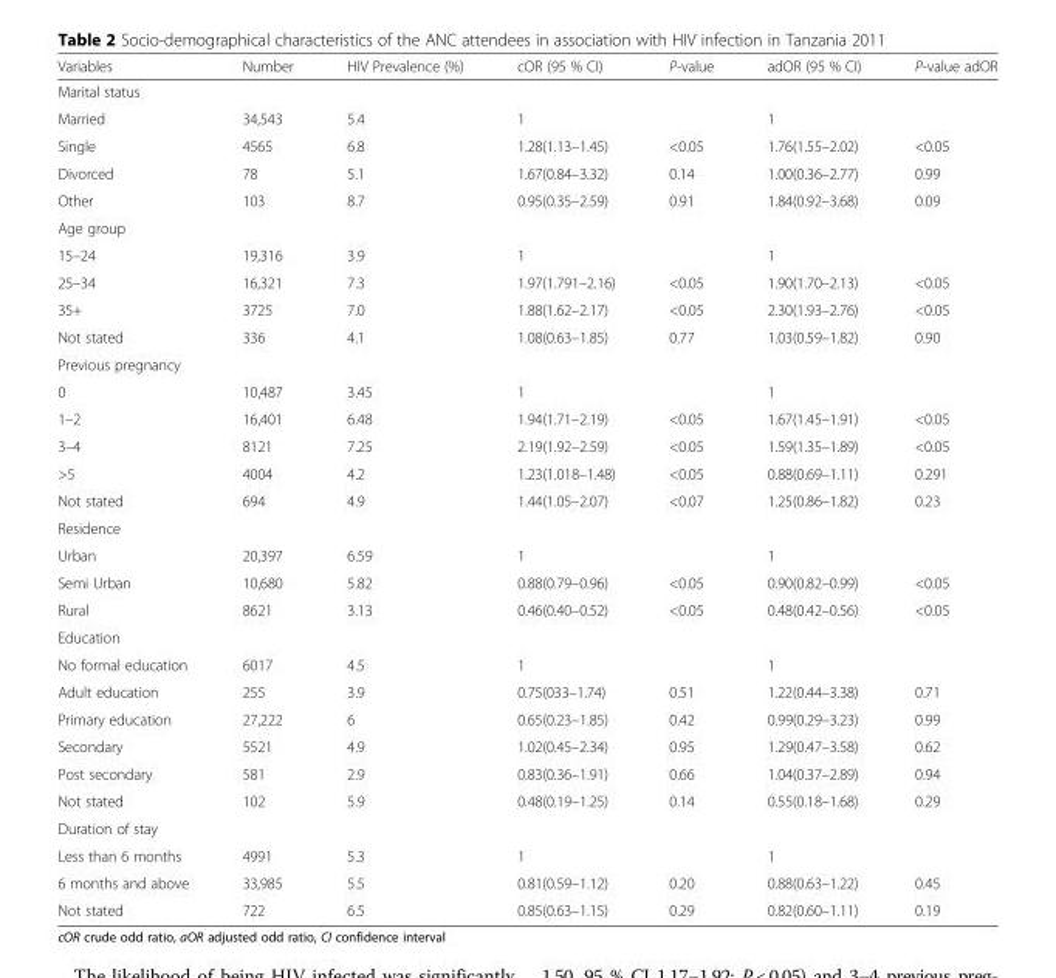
<table><thead><tr><td>Variables</td><td>Number</td><td>HIV Prevalence (%)</td><td>cOR (95 % CI)</td><td>P-value</td><td>adOR (95 % CI)</td><td>P-value adOR</td></tr></thead><tbody><tr><td colspan="7">Marital status</td></tr><tr><td>Married</td><td>34,543</td><td>5.4</td><td>1</td><td></td><td>1</td><td></td></tr><tr><td>Single</td><td>4565</td><td>6.8</td><td>1.28(1.13–1.45)</td><td>&lt;0.05</td><td>1.76(1.55–2.02)</td><td>&lt;0.05</td></tr><tr><td>Divorced</td><td>78</td><td>5.1</td><td>1.67(0.84–3.32)</td><td>0.14</td><td>1.00(0.36–2.77)</td><td>0.99</td></tr><tr><td>Other</td><td>103</td><td>8.7</td><td>0.95(0.35–2.59)</td><td>0.91</td><td>1.84(0.92–3.68)</td><td>0.09</td></tr><tr><td colspan="7">Age group</td></tr><tr><td>15–24</td><td>19,316</td><td>3.9</td><td>1</td><td></td><td>1</td><td></td></tr><tr><td>25–34</td><td>16,321</td><td>7.3</td><td>1.97(1.791–2.16)</td><td>&lt;0.05</td><td>1.90(1.70–2.13)</td><td>&lt;0.05</td></tr><tr><td>35+</td><td>3725</td><td>7.0</td><td>1.88(1.62–2.17)</td><td>&lt;0.05</td><td>2.30(1.93–2.76)</td><td>&lt;0.05</td></tr><tr><td>Not stated</td><td>336</td><td>4.1</td><td>1.08(0.63–1.85)</td><td>0.77</td><td>1.03(0.59–1.82)</td><td>0.90</td></tr><tr><td colspan="7">Previous pregnancy</td></tr><tr><td>0</td><td>10,487</td><td>3.45</td><td>1</td><td></td><td>1</td><td></td></tr><tr><td>1–2</td><td>16,401</td><td>6.48</td><td>1.94(1.71–2.19)</td><td>&lt;0.05</td><td>1.67(1.45–1.91)</td><td>&lt;0.05</td></tr><tr><td>3–4</td><td>8121</td><td>7.25</td><td>2.19(1.92–2.59)</td><td>&lt;0.05</td><td>1.59(1.35–1.89)</td><td>&lt;0.05</td></tr><tr><td>&gt;5</td><td>4004</td><td>4.2</td><td>1.23(1.018–1.48)</td><td>&lt;0.05</td><td>0.88(0.69–1.11)</td><td>0.291</td></tr><tr><td>Not stated</td><td>694</td><td>4.9</td><td>1.44(1.05–2.07)</td><td>&lt;0.07</td><td>1.25(0.86–1.82)</td><td>0.23</td></tr><tr><td colspan="7">Residence</td></tr><tr><td>Urban</td><td>20,397</td><td>6.59</td><td>1</td><td></td><td>1</td><td></td></tr><tr><td>Semi Urban</td><td>10,680</td><td>5.82</td><td>0.88(0.79–0.96)</td><td>&lt;0.05</td><td>0.90(0.82–0.99)</td><td>&lt;0.05</td></tr><tr><td>Rural</td><td>8621</td><td>3.13</td><td>0.46(0.40–0.52)</td><td>&lt;0.05</td><td>0.48(0.42–0.56)</td><td>&lt;0.05</td></tr><tr><td colspan="7">Education</td></tr><tr><td>No formal education</td><td>6017</td><td>4.5</td><td>1</td><td></td><td>1</td><td></td></tr><tr><td>Adult education</td><td>255</td><td>3.9</td><td>0.75(033–1.74)</td><td>0.51</td><td>1.22(0.44–3.38)</td><td>0.71</td></tr><tr><td>Primary education</td><td>27,222</td><td>6</td><td>0.65(0.23–1.85)</td><td>0.42</td><td>0.99(0.29–3.23)</td><td>0.99</td></tr><tr><td>Secondary</td><td>5521</td><td>4.9</td><td>1.02(0.45–2.34)</td><td>0.95</td><td>1.29(0.47–3.58)</td><td>0.62</td></tr><tr><td>Post secondary</td><td>581</td><td>2.9</td><td>0.83(0.36–1.91)</td><td>0.66</td><td>1.04(0.37–2.89)</td><td>0.94</td></tr><tr><td>Not stated</td><td>102</td><td>5.9</td><td>0.48(0.19–1.25)</td><td>0.14</td><td>0.55(0.18–1.68)</td><td>0.29</td></tr><tr><td colspan="7">Duration of stay</td></tr><tr><td>Less than 6 months</td><td>4991</td><td>5.3</td><td>1</td><td></td><td>1</td><td></td></tr><tr><td>6 months and above</td><td>33,985</td><td>5.5</td><td>0.81(0.59–1.12)</td><td>0.20</td><td>0.88(0.63–1.22)</td><td>0.45</td></tr><tr><td>Not stated</td><td>722</td><td>6.5</td><td>0.85(0.63–1.15)</td><td>0.29</td><td>0.82(0.60–1.11)</td><td>0.19</td></tr></tbody></table>